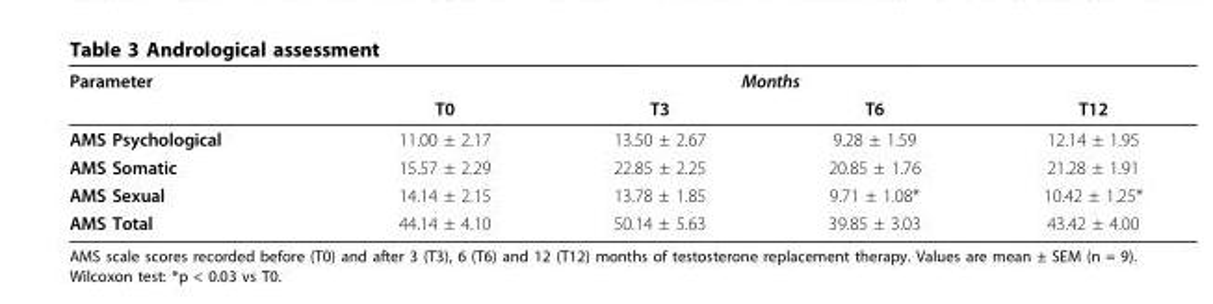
<table><thead><tr><td rowspan="2">Parameter</td><td colspan="4">Months</td></tr><tr><td>T0</td><td>T3</td><td>T6</td><td>T12</td></tr></thead><tbody><tr><td>AMS Psychological</td><td>11.00 ± 2.17</td><td>13.50 ± 2.67</td><td>9.28 ± 1.59</td><td>12.14 ± 1.95</td></tr><tr><td>AMS Somatic</td><td>15.57 ± 2.29</td><td>22.85 ± 2.25</td><td>20.85 ± 1.76</td><td>21.28 ± 1.91</td></tr><tr><td>AMS Sexual</td><td>14.14 ± 2.15</td><td>13.78 ± 1.85</td><td>9.71 ± 1.08*</td><td>10.42 ± 1.25*</td></tr><tr><td>AMS Total</td><td>44.14 ± 4.10</td><td>50.14 ± 5.63</td><td>39.85 ± 3.03</td><td>43.42 ± 4.00</td></tr></tbody></table>